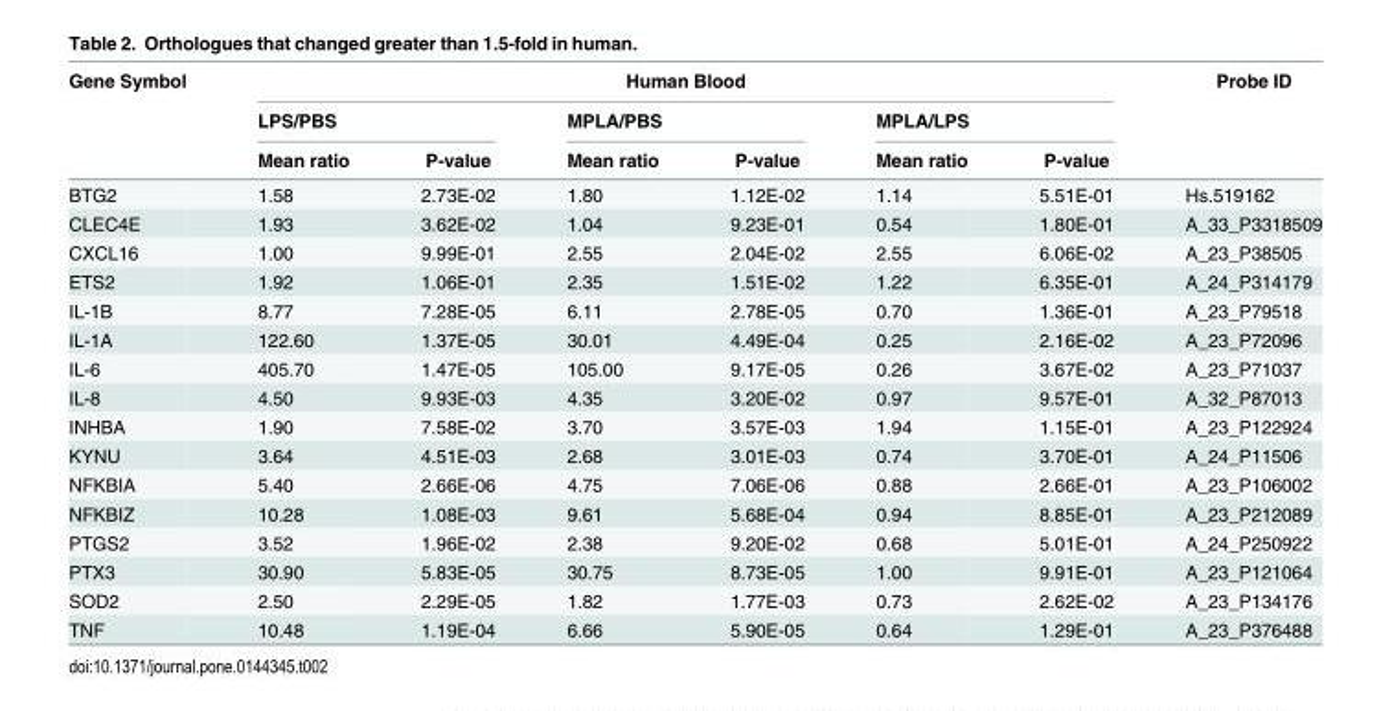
<table><thead><tr><td rowspan="3">Gene Symbol</td><td colspan="6">Human Blood</td><td rowspan="3">Probe ID</td></tr><tr><td colspan="2">LPS/PBS</td><td colspan="2">MPLA/PBS</td><td colspan="2">MPLA/LPS</td></tr><tr><td>Mean ratio</td><td>P-value</td><td>Mean ratio</td><td>P-value</td><td>Mean ratio</td><td>P-value</td></tr></thead><tbody><tr><td>BTG2</td><td>1.58</td><td>2.73E-02</td><td>1.80</td><td>1.12E-02</td><td>1.14</td><td>5.51E-01</td><td>Hs.519162</td></tr><tr><td>CLEC4E</td><td>1.93</td><td>3.62E-02</td><td>1.04</td><td>9.23E-01</td><td>0.54</td><td>1.80E-01</td><td>A_33_P3318509</td></tr><tr><td>CXCL16</td><td>1.00</td><td>9.99E-01</td><td>2.55</td><td>2.04E-02</td><td>2.55</td><td>6.06E-02</td><td>A_23_P38505</td></tr><tr><td>ETS2</td><td>1.92</td><td>1.06E-01</td><td>2.35</td><td>1.51E-02</td><td>1.22</td><td>6.35E-01</td><td>A_24_P314179</td></tr><tr><td>IL-1B</td><td>8.77</td><td>7.28E-05</td><td>6.11</td><td>2.78E-05</td><td>0.70</td><td>1.36E-01</td><td>A_23_P79518</td></tr><tr><td>IL-1A</td><td>122.60</td><td>1.37E-05</td><td>30.01</td><td>4.49E-04</td><td>0.25</td><td>2.16E-02</td><td>A_23_P72096</td></tr><tr><td>IL-6</td><td>405.70</td><td>1.47E-05</td><td>105.00</td><td>9.17E-05</td><td>0.26</td><td>3.67E-02</td><td>A_23_P71037</td></tr><tr><td>IL-8</td><td>4.50</td><td>9.93E-03</td><td>4.35</td><td>3.20E-02</td><td>0.97</td><td>9.57E-01</td><td>A_32_P87013</td></tr><tr><td>INHBA</td><td>1.90</td><td>7.58E-02</td><td>3.70</td><td>3.57E-03</td><td>1.94</td><td>1.15E-01</td><td>A_23_P122924</td></tr><tr><td>KYNU</td><td>3.64</td><td>4.51E-03</td><td>2.68</td><td>3.01E-03</td><td>0.74</td><td>3.70E-01</td><td>A_24_P11506</td></tr><tr><td>NFKBIA</td><td>5.40</td><td>2.66E-06</td><td>4.75</td><td>7.06E-06</td><td>0.88</td><td>2.66E-01</td><td>A_23_P106002</td></tr><tr><td>NFKBIZ</td><td>10.28</td><td>1.08E-03</td><td>9.61</td><td>5.68E-04</td><td>0.94</td><td>8.85E-01</td><td>A_23_P212089</td></tr><tr><td>PTGS2</td><td>3.52</td><td>1.96E-02</td><td>2.38</td><td>9.20E-02</td><td>0.68</td><td>5.01E-01</td><td>A_24_P250922</td></tr><tr><td>PTX3</td><td>30.90</td><td>5.83E-05</td><td>30.75</td><td>8.73E-05</td><td>1.00</td><td>9.91E-01</td><td>A_23_P121064</td></tr><tr><td>SOD2</td><td>2.50</td><td>2.29E-05</td><td>1.82</td><td>1.77E-03</td><td>0.73</td><td>2.62E-02</td><td>A_23_P134176</td></tr><tr><td>TNF</td><td>10.48</td><td>1.19E-04</td><td>6.66</td><td>5.90E-05</td><td>0.64</td><td>1.29E-01</td><td>A_23_P376488</td></tr></tbody></table>